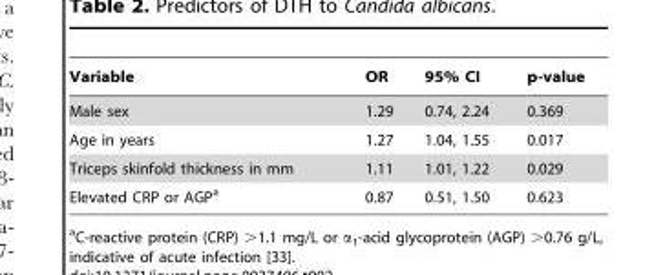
<table><thead><tr><td>Variable</td><td>OR</td><td>95% CI</td><td>p-value</td></tr></thead><tbody><tr><td>Male sex</td><td>1.29</td><td>0.74, 2.24</td><td>0.369</td></tr><tr><td>Age in years</td><td>1.27</td><td>1.04, 1.55</td><td>0.017</td></tr><tr><td>Triceps skinfold thickness in mm</td><td>1.11</td><td>1.01, 1.22</td><td>0.029</td></tr><tr><td>Elevated CRP or AGP<sup>a</sup></td><td>0.87</td><td>0.51, 1.50</td><td>0.623</td></tr></tbody></table>